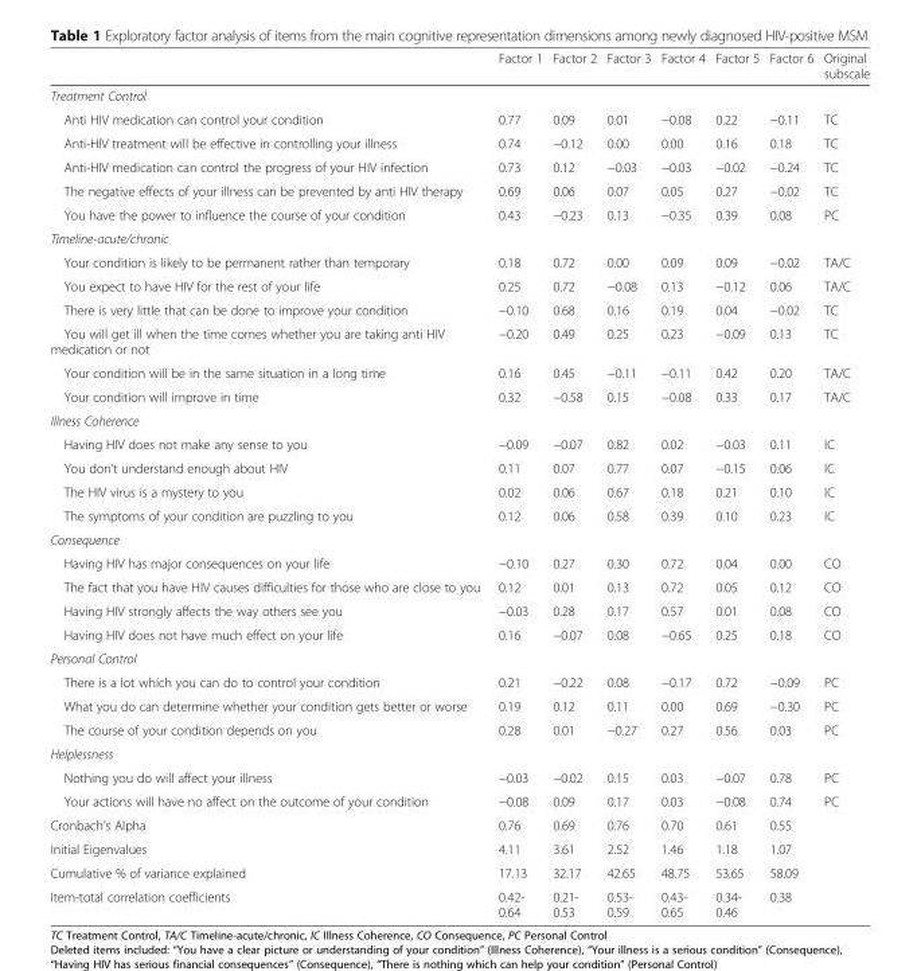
<table><thead><tr><td></td><td>Factor 1</td><td>Factor 2</td><td>Factor 3</td><td>Factor 4</td><td>Factor 5</td><td>Factor 6</td><td>Original subscale</td></tr></thead><tbody><tr><td colspan="8">Treatment Control</td></tr><tr><td>Anti HIV medication can control your condition</td><td>0.77</td><td>0.09</td><td>0.01</td><td>−0.08</td><td>0.22</td><td>−0.11</td><td>TC</td></tr><tr><td>Anti-HIV treatment will be effective in controlling your illness</td><td>0.74</td><td>−0.12</td><td>0.00</td><td>0.00</td><td>0.16</td><td>0.18</td><td>TC</td></tr><tr><td>Anti-HIV medication can control the progress of your HIV infection</td><td>0.73</td><td>0.12</td><td>−0.03</td><td>−0.03</td><td>−0.02</td><td>−0.24</td><td>TC</td></tr><tr><td>The negative effects of your illness can be prevented by anti HIV therapy</td><td>0.69</td><td>0.06</td><td>0.07</td><td>0.05</td><td>0.27</td><td>−0.02</td><td>TC</td></tr><tr><td>You have the power to influence the course of your condition</td><td>0.43</td><td>−0.23</td><td>0.13</td><td>−0.35</td><td>0.39</td><td>0.08</td><td>PC</td></tr><tr><td colspan="8">Timeline-acute/chronic</td></tr><tr><td>Your condition is likely to be permanent rather than temporary</td><td>0.18</td><td>0.72</td><td>0.00</td><td>0.09</td><td>0.09</td><td>−0.02</td><td>TA/C</td></tr><tr><td>You expect to have HIV for the rest of your life</td><td>0.25</td><td>0.72</td><td>−0.08</td><td>0.13</td><td>−0.12</td><td>0.06</td><td>TA/C</td></tr><tr><td>There is very little that can be done to improve your condition</td><td>−0.10</td><td>0.68</td><td>0.16</td><td>0.19</td><td>0.04</td><td>−0.02</td><td>TC</td></tr><tr><td>You will get ill when the time comes whether you are taking anti HIV medication or not</td><td>−0.20</td><td>0.49</td><td>0.25</td><td>0.23</td><td>−0.09</td><td>0.13</td><td>TC</td></tr><tr><td>Your condition will be in the same situation in a long time</td><td>0.16</td><td>0.45</td><td>−0.11</td><td>−0.11</td><td>0.42</td><td>0.20</td><td>TA/C</td></tr><tr><td>Your condition will improve in time</td><td>0.32</td><td>−0.58</td><td>0.15</td><td>−0.08</td><td>0.33</td><td>0.17</td><td>TA/C</td></tr><tr><td colspan="8">Illness Coherence</td></tr><tr><td>Having HIV does not make any sense to you</td><td>−0.09</td><td>−0.07</td><td>0.82</td><td>0.02</td><td>−0.03</td><td>0.11</td><td>IC</td></tr><tr><td>You don’t understand enough about HIV</td><td>0.11</td><td>0.07</td><td>0.77</td><td>0.07</td><td>−0.15</td><td>0.06</td><td>IC</td></tr><tr><td>The HIV virus is a mystery to you</td><td>0.02</td><td>0.06</td><td>0.67</td><td>0.18</td><td>0.21</td><td>0.10</td><td>IC</td></tr><tr><td>The symptoms of your condition are puzzling to you</td><td>0.12</td><td>0.06</td><td>0.58</td><td>0.39</td><td>0.10</td><td>0.23</td><td>IC</td></tr><tr><td colspan="8">Consequence</td></tr><tr><td>Having HIV has major consequences on your life</td><td>−0.10</td><td>0.27</td><td>0.30</td><td>0.72</td><td>0.04</td><td>0.00</td><td>CO</td></tr><tr><td>The fact that you have HIV causes difficulties for those who are close to you</td><td>0.12</td><td>0.01</td><td>0.13</td><td>0.72</td><td>0.05</td><td>0.12</td><td>CO</td></tr><tr><td>Having HIV strongly affects the way others see you</td><td>−0.03</td><td>0.28</td><td>0.17</td><td>0.57</td><td>0.01</td><td>0.08</td><td>CO</td></tr><tr><td>Having HIV does not have much effect on your life</td><td>0.16</td><td>−0.07</td><td>0.08</td><td>−0.65</td><td>0.25</td><td>0.18</td><td>CO</td></tr><tr><td colspan="8">Personal Control</td></tr><tr><td>There is a lot which you can do to control your condition</td><td>0.21</td><td>−0.22</td><td>0.08</td><td>−0.17</td><td>0.72</td><td>−0.09</td><td>PC</td></tr><tr><td>What you do can determine whether your condition gets better or worse</td><td>0.19</td><td>0.12</td><td>0.11</td><td>0.00</td><td>0.69</td><td>−0.30</td><td>PC</td></tr><tr><td>The course of your condition depends on you</td><td>0.28</td><td>0.01</td><td>−0.27</td><td>0.27</td><td>0.56</td><td>0.03</td><td>PC</td></tr><tr><td colspan="8">Helplessness</td></tr><tr><td>Nothing you do will affect your illness</td><td>−0.03</td><td>−0.02</td><td>0.15</td><td>0.03</td><td>−0.07</td><td>0.78</td><td>PC</td></tr><tr><td>Your actions will have no affect on the outcome of your condition</td><td>−0.08</td><td>0.09</td><td>0.17</td><td>0.03</td><td>−0.08</td><td>0.74</td><td>PC</td></tr><tr><td>Cronbach’s Alpha</td><td>0.76</td><td>0.69</td><td>0.76</td><td>0.70</td><td>0.61</td><td>0.55</td><td></td></tr><tr><td>Initial Eigenvalues</td><td>4.11</td><td>3.61</td><td>2.52</td><td>1.46</td><td>1.18</td><td>1.07</td><td></td></tr><tr><td>Cumulative % of variance explained</td><td>17.13</td><td>32.17</td><td>42.65</td><td>48.75</td><td>53.65</td><td>58.09</td><td></td></tr><tr><td>Item-total correlation coefficients</td><td>0.42- 0.64</td><td>0.21- 0.53</td><td>0.53- 0.59</td><td>0.43- 0.65</td><td>0.34- 0.46</td><td>0.38</td><td></td></tr></tbody></table>